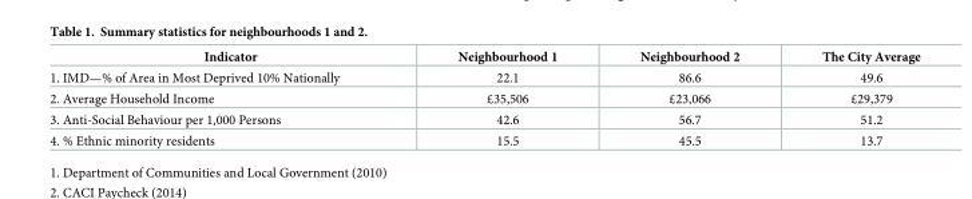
<table><thead><tr><td>Indicator</td><td>Neighbourhood 1</td><td>Neighbourhood 2</td><td>The City Average</td></tr></thead><tbody><tr><td>1. IMD—% of Area in Most Deprived 10% Nationally</td><td>22.1</td><td>86.6</td><td>49.6</td></tr><tr><td>2. Average Household Income</td><td>£35,506</td><td>£23,066</td><td>£29,379</td></tr><tr><td>3. Anti-Social Behaviour per 1,000 Persons</td><td>42.6</td><td>56.7</td><td>51.2</td></tr><tr><td>4. % Ethnic minority residents</td><td>15.5</td><td>45.5</td><td>13.7</td></tr></tbody></table>